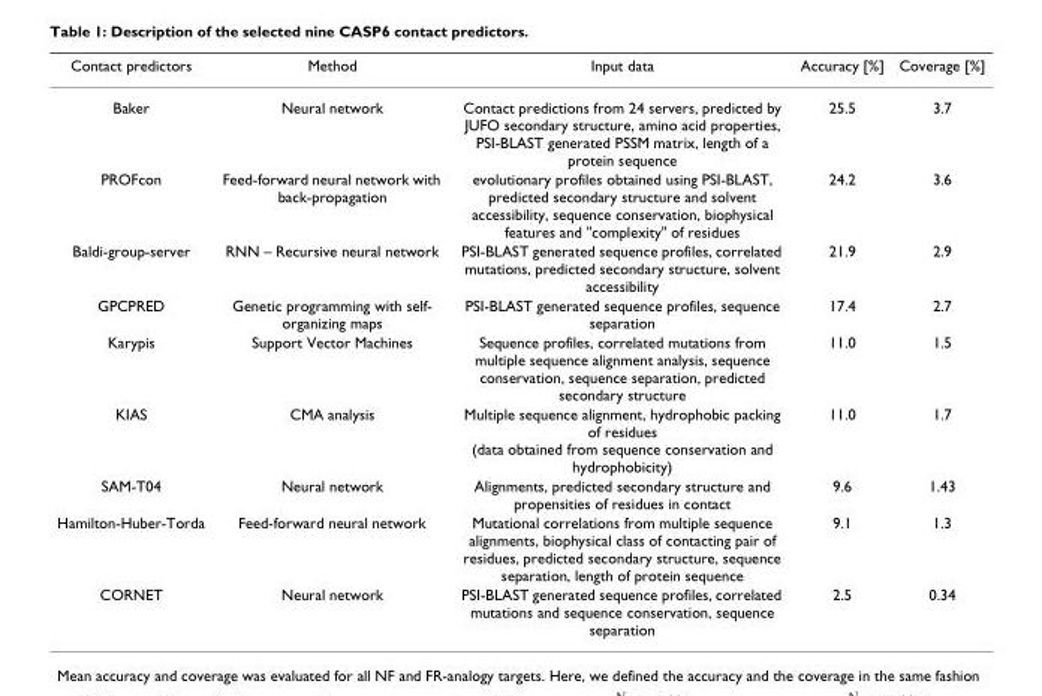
<table><thead><tr><td>Contact predictors</td><td>Method</td><td>Input data</td><td>Accuracy [%]</td><td>Coverage [%]</td></tr></thead><tbody><tr><td>Baker</td><td>Neural network</td><td>Contact predictions from 24 servers, predicted by JUFO secondary structure, amino acid properties, PSI-BLAST generated PSSM matrix, length of a protein sequence</td><td>25.5</td><td>3.7</td></tr><tr><td>PROFcon</td><td>Feed-forward neural network with back-propagation</td><td>evolutionary profiles obtained using PSI-BLAST, predicted secondary structure and solvent accessibility, sequence conservation, biophysical features and &quot;complexity&quot; of residues</td><td>24.2</td><td>3.6</td></tr><tr><td>Baldi-group-server</td><td>RNN – Recursive neural network</td><td>PSI-BLAST generated sequence profiles, correlated mutations, predicted secondary structure, solvent accessibility</td><td>21.9</td><td>2.9</td></tr><tr><td>GPCPRED</td><td>Genetic programming with self- organizing maps</td><td>PSI-BLAST generated sequence profiles, sequence separation</td><td>17.4</td><td>2.7</td></tr><tr><td>Karypis</td><td>Support Vector Machines</td><td>Sequence profiles, correlated mutations from multiple sequence alignment analysis, sequence conservation, sequence separation, predicted secondary structure</td><td>11.0</td><td>1.5</td></tr><tr><td>KIAS</td><td>CMA analysis</td><td>Multiple sequence alignment, hydrophobic packing of residues (data obtained from sequence conservation and hydrophobicity)</td><td>11.0</td><td>1.7</td></tr><tr><td>SAM-T04</td><td>Neural network</td><td>Alignments, predicted secondary structure and propensities of residues in contact</td><td>9.6</td><td>1.43</td></tr><tr><td>Hamilton-Huber-Torda</td><td>Feed-forward neural network</td><td>Mutational correlations from multiple sequence alignments, biophysical class of contacting pair of residues, predicted secondary structure, sequence separation, length of protein sequence</td><td>9.1</td><td>1.3</td></tr><tr><td>CORNET</td><td>Neural network</td><td>PSI-BLAST generated sequence profiles, correlated mutations and sequence conservation, sequence separation</td><td>2.5</td><td>0.34</td></tr></tbody></table>